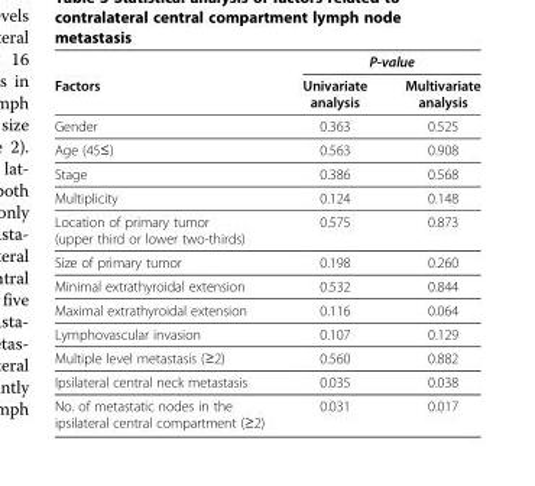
<table><thead><tr><td rowspan="2">Factors</td><td colspan="2">P-value</td></tr><tr><td>Univariate analysis</td><td>Multivariate analysis</td></tr></thead><tbody><tr><td>Gender</td><td>0.363</td><td>0.525</td></tr><tr><td>Age (45≤)</td><td>0.563</td><td>0.908</td></tr><tr><td>Stage</td><td>0.386</td><td>0.568</td></tr><tr><td>Multiplicity</td><td>0.124</td><td>0.148</td></tr><tr><td>Location of primary tumor (upper third or lower two-thirds)</td><td>0.575</td><td>0.873</td></tr><tr><td>Size of primary tumor</td><td>0.198</td><td>0.260</td></tr><tr><td>Minimal extrathyroidal extension</td><td>0.532</td><td>0.844</td></tr><tr><td>Maximal extrathyroidal extension</td><td>0.116</td><td>0.064</td></tr><tr><td>Lymphovascular invasion</td><td>0.107</td><td>0.129</td></tr><tr><td>Multiple level metastasis (≥2)</td><td>0.560</td><td>0.882</td></tr><tr><td>Ipsilateral central neck metastasis</td><td>0.035</td><td>0.038</td></tr><tr><td>No. of metastatic nodes in the ipsilateral central compartment (≥2)</td><td>0.031</td><td>0.017</td></tr></tbody></table>